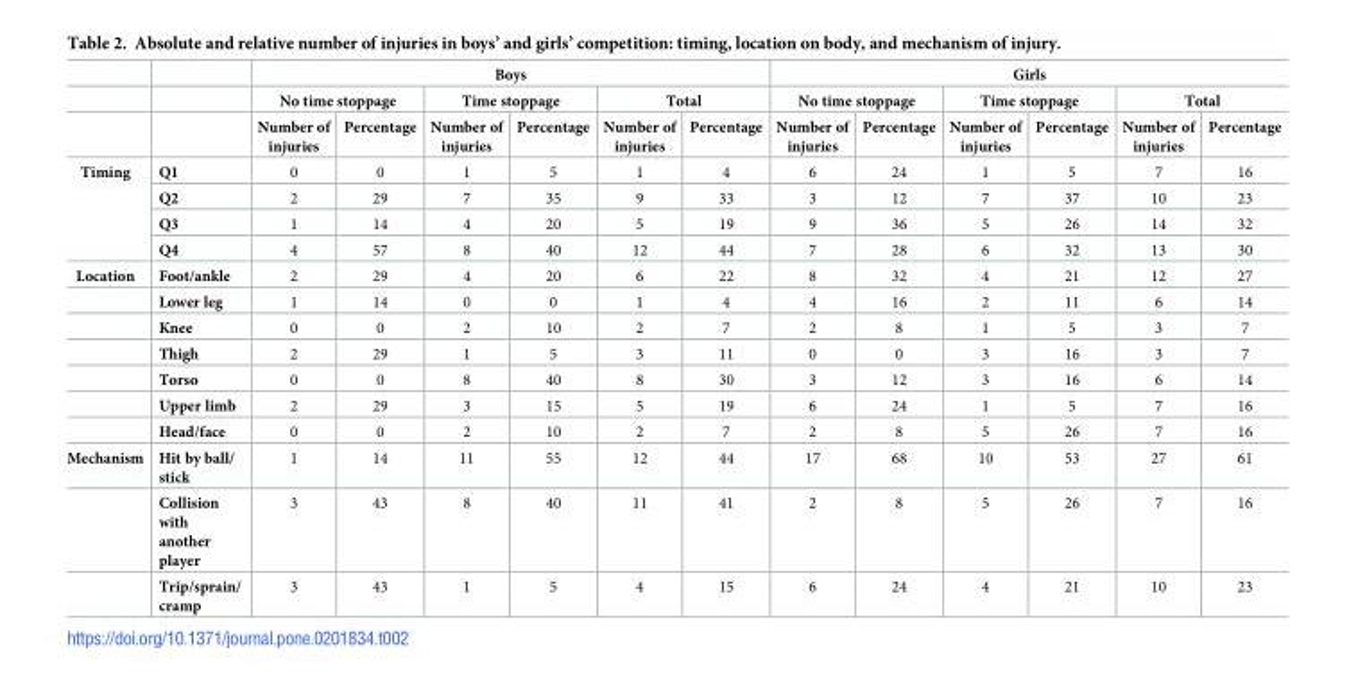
<table><thead><tr><td rowspan="3"></td><td rowspan="3"></td><td colspan="6">Boys</td><td colspan="6">Girls</td></tr><tr><td colspan="2">No time stoppage</td><td colspan="2">Time stoppage</td><td colspan="2">Total</td><td colspan="2">No time stoppage</td><td colspan="2">Time stoppage</td><td colspan="2">Total</td></tr><tr><td>Number of injuries</td><td>Percentage</td><td>Number of injuries</td><td>Percentage</td><td>Number of injuries</td><td>Percentage</td><td>Number of injuries</td><td>Percentage</td><td>Number of injuries</td><td>Percentage</td><td>Number of injuries</td><td>Percentage</td></tr></thead><tbody><tr><td rowspan="4">Timing</td><td>Q1</td><td>0</td><td>0</td><td>1</td><td>5</td><td>1</td><td>4</td><td>6</td><td>24</td><td>1</td><td>5</td><td>7</td><td>16</td></tr><tr><td>Q2</td><td>2</td><td>29</td><td>7</td><td>35</td><td>9</td><td>33</td><td>3</td><td>12</td><td>7</td><td>37</td><td>10</td><td>23</td></tr><tr><td>Q3</td><td>1</td><td>14</td><td>4</td><td>20</td><td>5</td><td>19</td><td>9</td><td>36</td><td>5</td><td>26</td><td>14</td><td>32</td></tr><tr><td>Q4</td><td>4</td><td>57</td><td>8</td><td>40</td><td>12</td><td>44</td><td>7</td><td>28</td><td>6</td><td>32</td><td>13</td><td>30</td></tr><tr><td rowspan="7">Location</td><td>Foot/ankle</td><td>2</td><td>29</td><td>4</td><td>20</td><td>6</td><td>22</td><td>8</td><td>32</td><td>4</td><td>21</td><td>12</td><td>27</td></tr><tr><td>Lower leg</td><td>1</td><td>14</td><td>0</td><td>0</td><td>1</td><td>4</td><td>4</td><td>16</td><td>2</td><td>11</td><td>6</td><td>14</td></tr><tr><td>Knee</td><td>0</td><td>0</td><td>2</td><td>10</td><td>2</td><td>7</td><td>2</td><td>8</td><td>1</td><td>5</td><td>3</td><td>7</td></tr><tr><td>Thigh</td><td>2</td><td>29</td><td>1</td><td>5</td><td>3</td><td>11</td><td>0</td><td>0</td><td>3</td><td>16</td><td>3</td><td>7</td></tr><tr><td>Torso</td><td>0</td><td>0</td><td>8</td><td>40</td><td>8</td><td>30</td><td>3</td><td>12</td><td>3</td><td>16</td><td>6</td><td>14</td></tr><tr><td>Upper limb</td><td>2</td><td>29</td><td>3</td><td>15</td><td>5</td><td>19</td><td>6</td><td>24</td><td>1</td><td>5</td><td>7</td><td>16</td></tr><tr><td>Head/face</td><td>0</td><td>0</td><td>2</td><td>10</td><td>2</td><td>7</td><td>2</td><td>8</td><td>5</td><td>26</td><td>7</td><td>16</td></tr><tr><td rowspan="3">Mechanism</td><td>Hit by ball/ stick</td><td>1</td><td>14</td><td>11</td><td>55</td><td>12</td><td>44</td><td>17</td><td>68</td><td>10</td><td>53</td><td>27</td><td>61</td></tr><tr><td>Collision with another player</td><td>3</td><td>43</td><td>8</td><td>40</td><td>11</td><td>41</td><td>2</td><td>8</td><td>5</td><td>26</td><td>7</td><td>16</td></tr><tr><td>Trip/sprain/ cramp</td><td>3</td><td>43</td><td>1</td><td>5</td><td>4</td><td>15</td><td>6</td><td>24</td><td>4</td><td>21</td><td>10</td><td>23</td></tr></tbody></table>